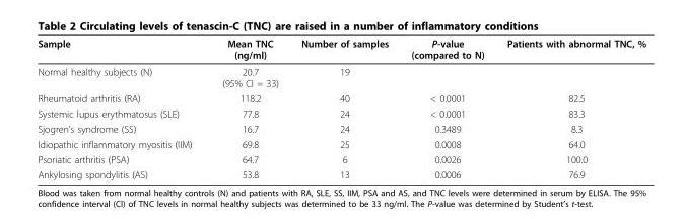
<table><thead><tr><td>Sample</td><td>Mean TNC (ng/ml)</td><td>Number of samples</td><td>P-value (compared to N)</td><td>Patients with abnormal TNC, %</td></tr></thead><tbody><tr><td>Normal healthy subjects (N)</td><td>20.7 (95% CI = 33)</td><td>19</td><td></td><td></td></tr><tr><td>Rheumatoid arthritis (RA)</td><td>118.2</td><td>40</td><td>&lt; 0.0001</td><td>82.5</td></tr><tr><td>Systemic lupus erythmatosus (SLE)</td><td>77.8</td><td>24</td><td>&lt; 0.0001</td><td>83.3</td></tr><tr><td>Sjogren’s syndrome (SS)</td><td>16.7</td><td>24</td><td>0.3489</td><td>8.3</td></tr><tr><td>Idiopathic inflammatory myositis (IIM)</td><td>69.8</td><td>25</td><td>0.0008</td><td>64.0</td></tr><tr><td>Psoriatic arthritis (PSA)</td><td>64.7</td><td>6</td><td>0.0026</td><td>100.0</td></tr><tr><td>Ankylosing spondylitis (AS)</td><td>53.8</td><td>13</td><td>0.0006</td><td>76.9</td></tr></tbody></table>